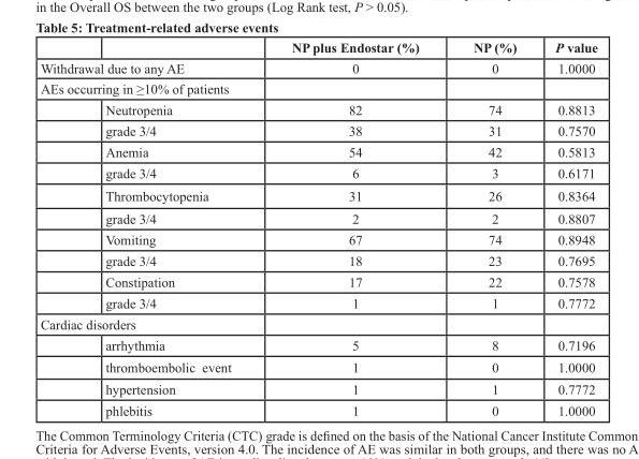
<table><thead><tr><td></td><td>NP plus Endostar (%)</td><td>NP (%)</td><td>P value</td></tr></thead><tbody><tr><td>Withdrawal due to any AE</td><td>0</td><td>0</td><td>1.0000</td></tr><tr><td colspan="4">AEs occurring in ≥10% of patients</td></tr><tr><td>Neutropenia</td><td>82</td><td>74</td><td>0.8813</td></tr><tr><td>grade 3/4</td><td>38</td><td>31</td><td>0.7570</td></tr><tr><td>Anemia</td><td>54</td><td>42</td><td>0.5813</td></tr><tr><td>grade 3/4</td><td>6</td><td>3</td><td>0.6171</td></tr><tr><td>Thrombocytopenia</td><td>31</td><td>26</td><td>0.8364</td></tr><tr><td>grade 3/4</td><td>2</td><td>2</td><td>0.8807</td></tr><tr><td>Vomiting</td><td>67</td><td>74</td><td>0.8948</td></tr><tr><td>grade 3/4</td><td>18</td><td>23</td><td>0.7695</td></tr><tr><td>Constipation</td><td>17</td><td>22</td><td>0.7578</td></tr><tr><td>grade 3/4</td><td>1</td><td>1</td><td>0.7772</td></tr><tr><td colspan="4">Cardiac disorders</td></tr><tr><td>arrhythmia</td><td>5</td><td>8</td><td>0.7196</td></tr><tr><td>thromboembolic event</td><td>1</td><td>0</td><td>1.0000</td></tr><tr><td>hypertension</td><td>1</td><td>1</td><td>0.7772</td></tr><tr><td>phlebitis</td><td>1</td><td>0</td><td>1.0000</td></tr></tbody></table>